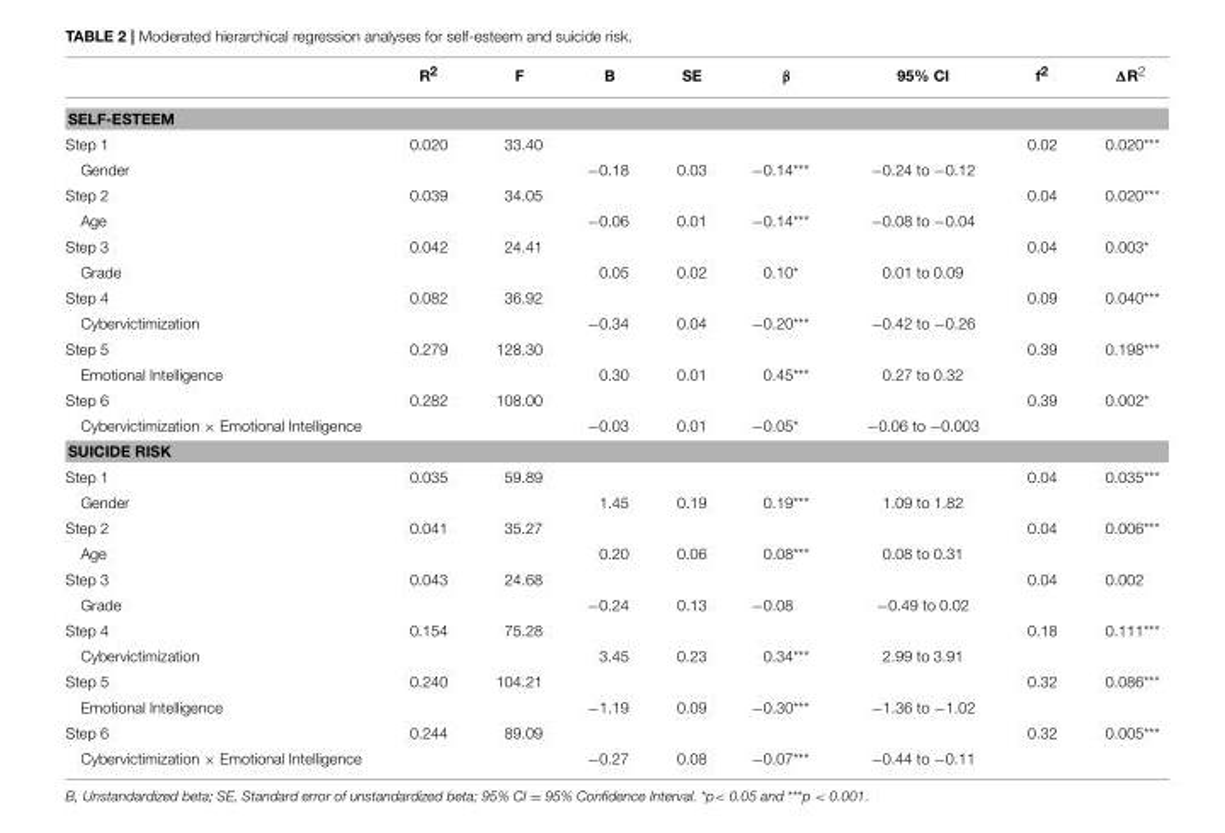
<table><thead><tr><td></td><td>R<sup>2</sup></td><td>F</td><td>B</td><td>SE</td><td>β</td><td>95% CI</td><td>f<sup>2</sup></td><td>ΔR<sup>2</sup></td></tr></thead><tbody><tr><td colspan="9">SELF-ESTEEM</td></tr><tr><td>Step 1</td><td>0.020</td><td>33.40</td><td></td><td></td><td></td><td></td><td>0.02</td><td>0.020***</td></tr><tr><td>Gender</td><td></td><td></td><td>−0.18</td><td>0.03</td><td>−0.14***</td><td>−0.24 to −0.12</td><td></td><td></td></tr><tr><td>Step 2</td><td>0.039</td><td>34.05</td><td></td><td></td><td></td><td></td><td>0.04</td><td>0.020***</td></tr><tr><td>Age</td><td></td><td></td><td>−0.06</td><td>0.01</td><td>−0.14***</td><td>−0.08 to −0.04</td><td></td><td></td></tr><tr><td>Step 3</td><td>0.042</td><td>24.41</td><td></td><td></td><td></td><td></td><td>0.04</td><td>0.003*</td></tr><tr><td>Grade</td><td></td><td></td><td>0.05</td><td>0.02</td><td>0.10*</td><td>0.01 to 0.09</td><td></td><td></td></tr><tr><td>Step 4</td><td>0.082</td><td>36.92</td><td></td><td></td><td></td><td></td><td>0.09</td><td>0.040***</td></tr><tr><td>Cybervictimization</td><td></td><td></td><td>−0.34</td><td>0.04</td><td>−0.20***</td><td>−0.42 to −0.26</td><td></td><td></td></tr><tr><td>Step 5</td><td>0.279</td><td>128.30</td><td></td><td></td><td></td><td></td><td>0.39</td><td>0.198***</td></tr><tr><td>Emotional Intelligence</td><td></td><td></td><td>0.30</td><td>0.01</td><td>0.45***</td><td>0.27 to 0.32</td><td></td><td></td></tr><tr><td>Step 6</td><td>0.282</td><td>108.00</td><td></td><td></td><td></td><td></td><td>0.39</td><td>0.002*</td></tr><tr><td>Cybervictimization × Emotional Intelligence</td><td></td><td></td><td>−0.03</td><td>0.01</td><td>−0.05*</td><td>−0.06 to −0.003</td><td></td><td></td></tr><tr><td colspan="9">SUICIDE RISK</td></tr><tr><td>Step 1</td><td>0.035</td><td>59.89</td><td></td><td></td><td></td><td></td><td>0.04</td><td>0.035***</td></tr><tr><td>Gender</td><td></td><td></td><td>1.45</td><td>0.19</td><td>0.19***</td><td>1.09 to 1.82</td><td></td><td></td></tr><tr><td>Step 2</td><td>0.041</td><td>35.27</td><td></td><td></td><td></td><td></td><td>0.04</td><td>0.006***</td></tr><tr><td>Age</td><td></td><td></td><td>0.20</td><td>0.06</td><td>0.08***</td><td>0.08 to 0.31</td><td></td><td></td></tr><tr><td>Step 3</td><td>0.043</td><td>24.68</td><td></td><td></td><td></td><td></td><td>0.04</td><td>0.002</td></tr><tr><td>Grade</td><td></td><td></td><td>−0.24</td><td>0.13</td><td>−0.08</td><td>−0.49 to 0.02</td><td></td><td></td></tr><tr><td>Step 4</td><td>0.154</td><td>75.28</td><td></td><td></td><td></td><td></td><td>0.18</td><td>0.111***</td></tr><tr><td>Cybervictimization</td><td></td><td></td><td>3.45</td><td>0.23</td><td>0.34***</td><td>2.99 to 3.91</td><td></td><td></td></tr><tr><td>Step 5</td><td>0.240</td><td>104.21</td><td></td><td></td><td></td><td></td><td>0.32</td><td>0.086***</td></tr><tr><td>Emotional Intelligence</td><td></td><td></td><td>−1.19</td><td>0.09</td><td>−0.30***</td><td>−1.36 to −1.02</td><td></td><td></td></tr><tr><td>Step 6</td><td>0.244</td><td>89.09</td><td></td><td></td><td></td><td></td><td>0.32</td><td>0.005***</td></tr><tr><td>Cybervictimization × Emotional Intelligence</td><td></td><td></td><td>−0.27</td><td>0.08</td><td>−0.07***</td><td>−0.44 to −0.11</td><td></td><td></td></tr></tbody></table>